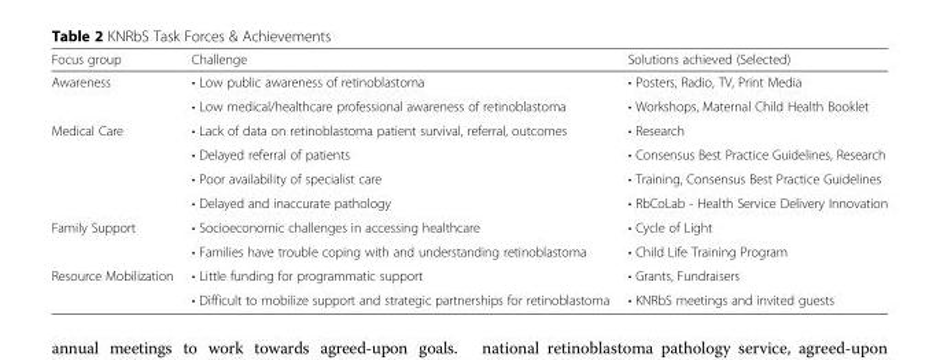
<table><thead><tr><td>Focus group</td><td>Challenge</td><td>Solutions achieved (Selected)</td></tr></thead><tbody><tr><td rowspan="2">Awareness</td><td>• Low public awareness of retinoblastoma</td><td>• Posters, Radio, TV, Print Media</td></tr><tr><td>• Low medical/healthcare professional awareness of retinoblastoma</td><td>• Workshops, Maternal Child Health Booklet</td></tr><tr><td rowspan="4">Medical Care</td><td>• Lack of data on retinoblastoma patient survival, referral, outcomes</td><td>• Research</td></tr><tr><td>• Delayed referral of patients</td><td>• Consensus Best Practice Guidelines, Research</td></tr><tr><td>• Poor availability of specialist care</td><td>• Training, Consensus Best Practice Guidelines</td></tr><tr><td>• Delayed and inaccurate pathology</td><td>• RbCoLab - Health Service Delivery Innovation</td></tr><tr><td rowspan="2">Family Support</td><td>• Socioeconomic challenges in accessing healthcare</td><td>• Cycle of Light</td></tr><tr><td>• Families have trouble coping with and understanding retinoblastoma</td><td>• Child Life Training Program</td></tr><tr><td rowspan="2">Resource Mobilization</td><td>• Little funding for programmatic support</td><td>• Grants, Fundraisers</td></tr><tr><td>• Difficult to mobilize support and strategic partnerships for retinoblastoma</td><td>• KNRbS meetings and invited guests</td></tr></tbody></table>